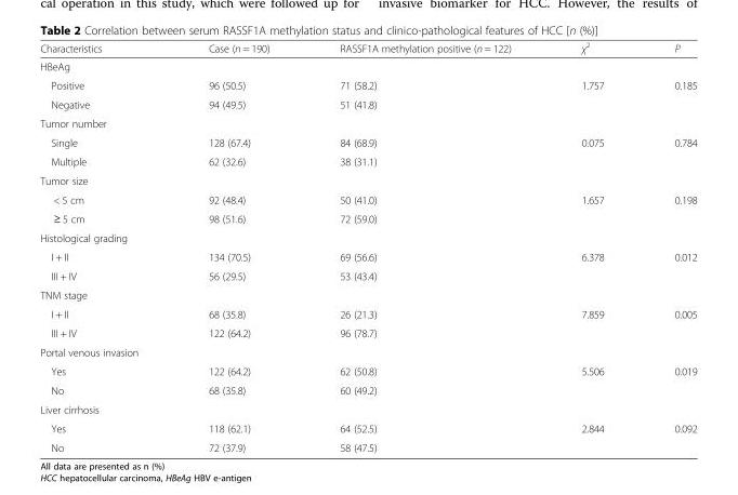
<table><thead><tr><td>Characteristics</td><td>Case (n = 190)</td><td>RASSF1A methylation positive (n = 122)</td><td>χ<sup>2</sup></td><td>P</td></tr></thead><tbody><tr><td colspan="5">HBeAg</td></tr><tr><td>Positive</td><td>96 (50.5)</td><td>71 (58.2)</td><td>1.757</td><td>0.185</td></tr><tr><td>Negative</td><td>94 (49.5)</td><td>51 (41.8)</td><td></td><td></td></tr><tr><td colspan="5">Tumor number</td></tr><tr><td>Single</td><td>128 (67.4)</td><td>84 (68.9)</td><td>0.075</td><td>0.784</td></tr><tr><td>Multiple</td><td>62 (32.6)</td><td>38 (31.1)</td><td></td><td></td></tr><tr><td colspan="5">Tumor size</td></tr><tr><td>&lt; 5 cm</td><td>92 (48.4)</td><td>50 (41.0)</td><td>1.657</td><td>0.198</td></tr><tr><td>≥ 5 cm</td><td>98 (51.6)</td><td>72 (59.0)</td><td></td><td></td></tr><tr><td colspan="5">Histological grading</td></tr><tr><td>I + II</td><td>134 (70.5)</td><td>69 (56.6)</td><td>6.378</td><td>0.012</td></tr><tr><td>III + IV</td><td>56 (29.5)</td><td>53 (43.4)</td><td></td><td></td></tr><tr><td colspan="5">TNM stage</td></tr><tr><td>I + II</td><td>68 (35.8)</td><td>26 (21.3)</td><td>7.859</td><td>0.005</td></tr><tr><td>III + IV</td><td>122 (64.2)</td><td>96 (78.7)</td><td></td><td></td></tr><tr><td colspan="5">Portal venous invasion</td></tr><tr><td>Yes</td><td>122 (64.2)</td><td>62 (50.8)</td><td>5.506</td><td>0.019</td></tr><tr><td>No</td><td>68 (35.8)</td><td>60 (49.2)</td><td></td><td></td></tr><tr><td colspan="5">Liver cirrhosis</td></tr><tr><td>Yes</td><td>118 (62.1)</td><td>64 (52.5)</td><td>2.844</td><td>0.092</td></tr><tr><td>No</td><td>72 (37.9)</td><td>58 (47.5)</td><td></td><td></td></tr></tbody></table>